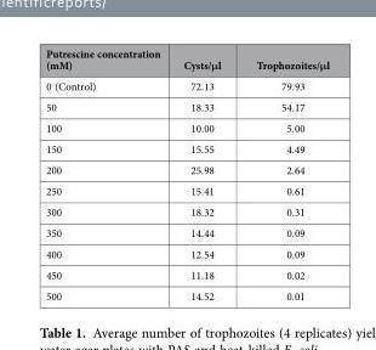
<table><thead><tr><td>Putrescine concentration (mM)</td><td>Cysts/μl</td><td>Trophozoites/μl</td></tr></thead><tbody><tr><td>0 (Control)</td><td>72.13</td><td>79.93</td></tr><tr><td>50</td><td>18.33</td><td>54.17</td></tr><tr><td>100</td><td>10.00</td><td>5.00</td></tr><tr><td>150</td><td>15.55</td><td>4.49</td></tr><tr><td>200</td><td>25.98</td><td>2.64</td></tr><tr><td>250</td><td>15.41</td><td>0.61</td></tr><tr><td>300</td><td>18.32</td><td>0.31</td></tr><tr><td>350</td><td>14.44</td><td>0.09</td></tr><tr><td>400</td><td>12.54</td><td>0.09</td></tr><tr><td>450</td><td>11.18</td><td>0.02</td></tr><tr><td>500</td><td>14.52</td><td>0.01</td></tr></tbody></table>